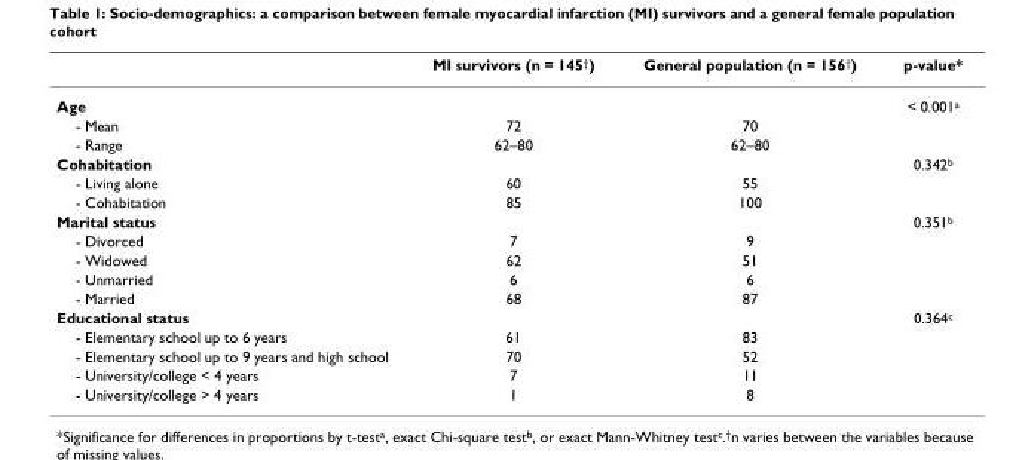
<table><thead><tr><td></td><td>MI survivors (n = 145<sup>†</sup>)</td><td>General population (n = 156<sup>†</sup>)</td><td>p-value*</td></tr></thead><tbody><tr><td>Age</td><td></td><td></td><td>&lt; 0.001<sup>a</sup></td></tr><tr><td>- Mean</td><td>72</td><td>70</td><td></td></tr><tr><td>- Range</td><td>62–80</td><td>62–80</td><td></td></tr><tr><td>Cohabitation</td><td></td><td></td><td>0.342<sup>b</sup></td></tr><tr><td>- Living alone</td><td>60</td><td>55</td><td></td></tr><tr><td>- Cohabitation</td><td>85</td><td>100</td><td></td></tr><tr><td>Marital status</td><td></td><td></td><td>0.351<sup>b</sup></td></tr><tr><td>- Divorced</td><td>7</td><td>9</td><td></td></tr><tr><td>- Widowed</td><td>62</td><td>51</td><td></td></tr><tr><td>- Unmarried</td><td>6</td><td>6</td><td></td></tr><tr><td>- Married</td><td>68</td><td>87</td><td></td></tr><tr><td>Educational status</td><td></td><td></td><td>0.364<sup>c</sup></td></tr><tr><td>- Elementary school up to 6 years</td><td>61</td><td>83</td><td></td></tr><tr><td>- Elementary school up to 9 years and high school</td><td>70</td><td>52</td><td></td></tr><tr><td>- University/college &lt; 4 years</td><td>7</td><td>11</td><td></td></tr><tr><td>- University/college &gt; 4 years</td><td>1</td><td>8</td><td></td></tr></tbody></table>